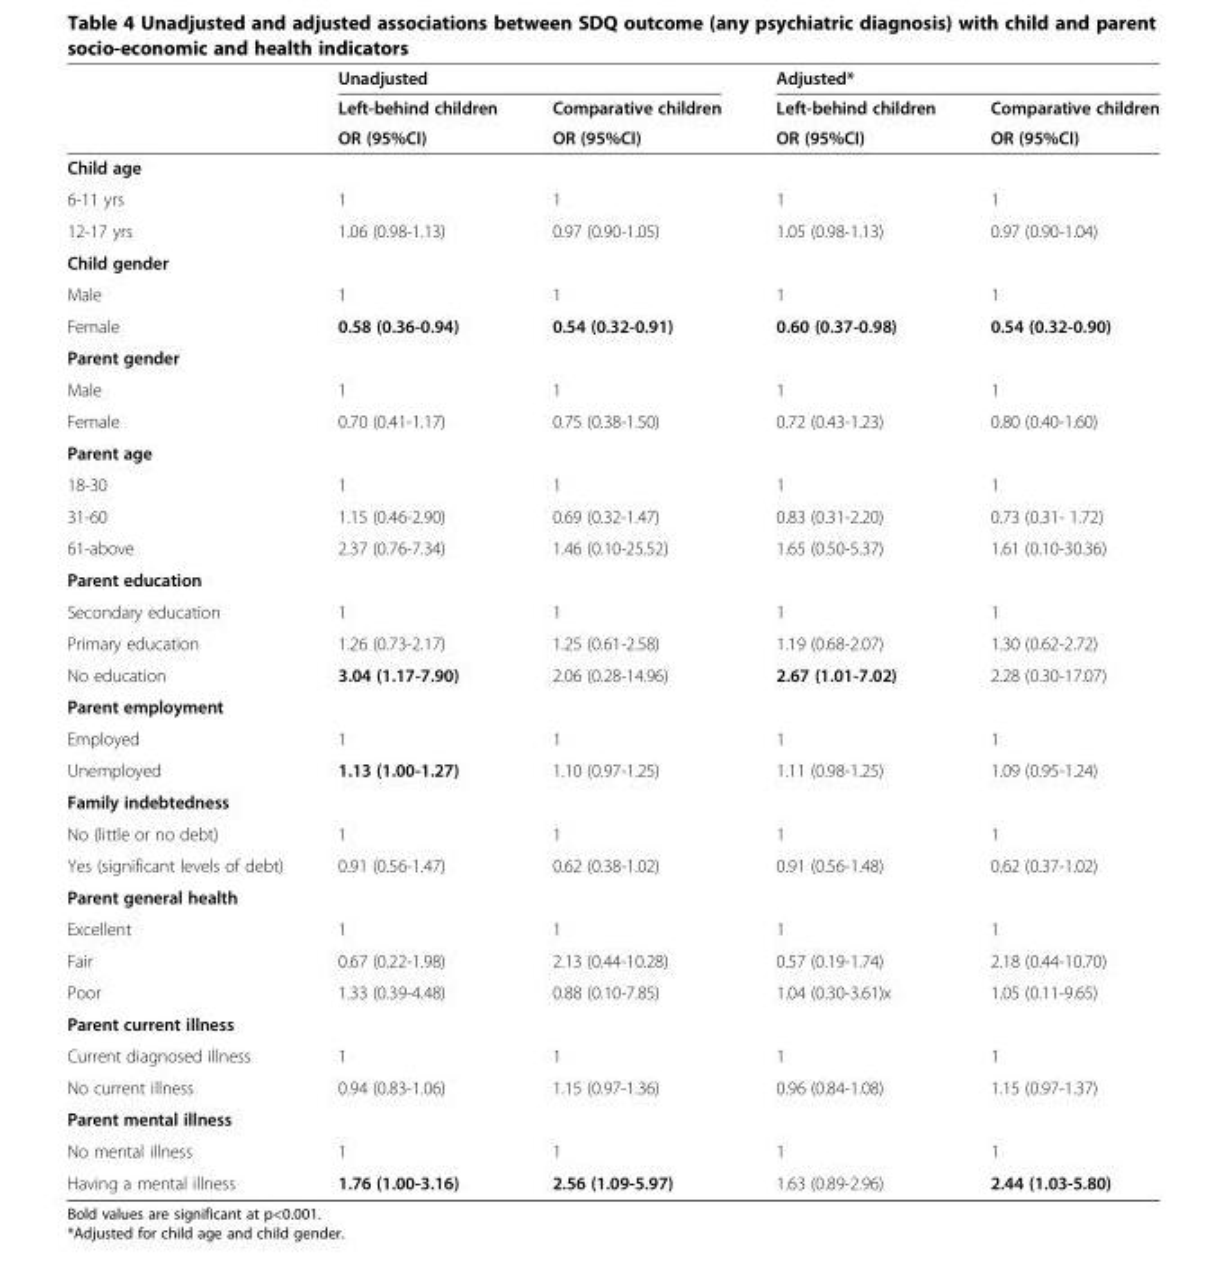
<table><thead><tr><td rowspan="3"></td><td colspan="2">Unadjusted</td><td colspan="2">Adjusted*</td></tr><tr><td rowspan="2">Left-behind children OR (95%CI)</td><td rowspan="2">Comparative children OR (95%CI)</td><td rowspan="2">Left-behind children OR (95%CI)</td><td rowspan="2">Comparative children OR (95%CI)</td></tr><tr></tr></thead><tbody><tr><td colspan="5">Child age</td></tr><tr><td>6-11 yrs</td><td>1</td><td>1</td><td>1</td><td>1</td></tr><tr><td>12-17 yrs</td><td>1.06 (0.98-1.13)</td><td>0.97 (0.90-1.05)</td><td>1.05 (0.98-1.13)</td><td>0.97 (0.90-1.04)</td></tr><tr><td colspan="5">Child gender</td></tr><tr><td>Male</td><td>1</td><td>1</td><td>1</td><td>1</td></tr><tr><td>Female</td><td>0.58 (0.36-0.94)</td><td>0.54 (0.32-0.91)</td><td>0.60 (0.37-0.98)</td><td>0.54 (0.32-0.90)</td></tr><tr><td colspan="5">Parent gender</td></tr><tr><td>Male</td><td>1</td><td>1</td><td>1</td><td>1</td></tr><tr><td>Female</td><td>0.70 (0.41-1.17)</td><td>0.75 (0.38-1.50)</td><td>0.72 (0.43-1.23)</td><td>0.80 (0.40-1.60)</td></tr><tr><td colspan="5">Parent age</td></tr><tr><td>18-30</td><td>1</td><td>1</td><td>1</td><td>1</td></tr><tr><td>31-60</td><td>1.15 (0.46-2.90)</td><td>0.69 (0.32-1.47)</td><td>0.83 (0.31-2.20)</td><td>0.73 (0.31- 1.72)</td></tr><tr><td>61-above</td><td>2.37 (0.76-7.34)</td><td>1.46 (0.10-25.52)</td><td>1.65 (0.50-5.37)</td><td>1.61 (0.10-30.36)</td></tr><tr><td colspan="5">Parent education</td></tr><tr><td>Secondary education</td><td>1</td><td>1</td><td>1</td><td>1</td></tr><tr><td>Primary education</td><td>1.26 (0.73-2.17)</td><td>1.25 (0.61-2.58)</td><td>1.19 (0.68-2.07)</td><td>1.30 (0.62-2.72)</td></tr><tr><td>No education</td><td>3.04 (1.17-7.90)</td><td>2.06 (0.28-14.96)</td><td>2.67 (1.01-7.02)</td><td>2.28 (0.30-17.07)</td></tr><tr><td colspan="5">Parent employment</td></tr><tr><td>Employed</td><td>1</td><td>1</td><td>1</td><td>1</td></tr><tr><td>Unemployed</td><td>1.13 (1.00-1.27)</td><td>1.10 (0.97-1.25)</td><td>1.11 (0.98-1.25)</td><td>1.09 (0.95-1.24)</td></tr><tr><td colspan="5">Family indebtedness</td></tr><tr><td>No (little or no debt)</td><td>1</td><td>1</td><td>1</td><td>1</td></tr><tr><td>Yes (significant levels of debt)</td><td>0.91 (0.56-1.47)</td><td>0.62 (0.38-1.02)</td><td>0.91 (0.56-1.48)</td><td>0.62 (0.37-1.02)</td></tr><tr><td colspan="5">Parent general health</td></tr><tr><td>Excellent</td><td>1</td><td>1</td><td>1</td><td>1</td></tr><tr><td>Fair</td><td>0.67 (0.22-1.98)</td><td>2.13 (0.44-10.28)</td><td>0.57 (0.19-1.74)</td><td>2.18 (0.44-10.70)</td></tr><tr><td>Poor</td><td>1.33 (0.39-4.48)</td><td>0.88 (0.10-7.85)</td><td>1.04 (0.30-3.61)x</td><td>1.05 (0.11-9.65)</td></tr><tr><td colspan="5">Parent current illness</td></tr><tr><td>Current diagnosed illness</td><td>1</td><td>1</td><td>1</td><td>1</td></tr><tr><td>No current illness</td><td>0.94 (0.83-1.06)</td><td>1.15 (0.97-1.36)</td><td>0.96 (0.84-1.08)</td><td>1.15 (0.97-1.37)</td></tr><tr><td colspan="5">Parent mental illness</td></tr><tr><td>No mental illness</td><td>1</td><td>1</td><td>1</td><td>1</td></tr><tr><td>Having a mental illness</td><td>1.76 (1.00-3.16)</td><td>2.56 (1.09-5.97)</td><td>1.63 (0.89-2.96)</td><td>2.44 (1.03-5.80)</td></tr></tbody></table>